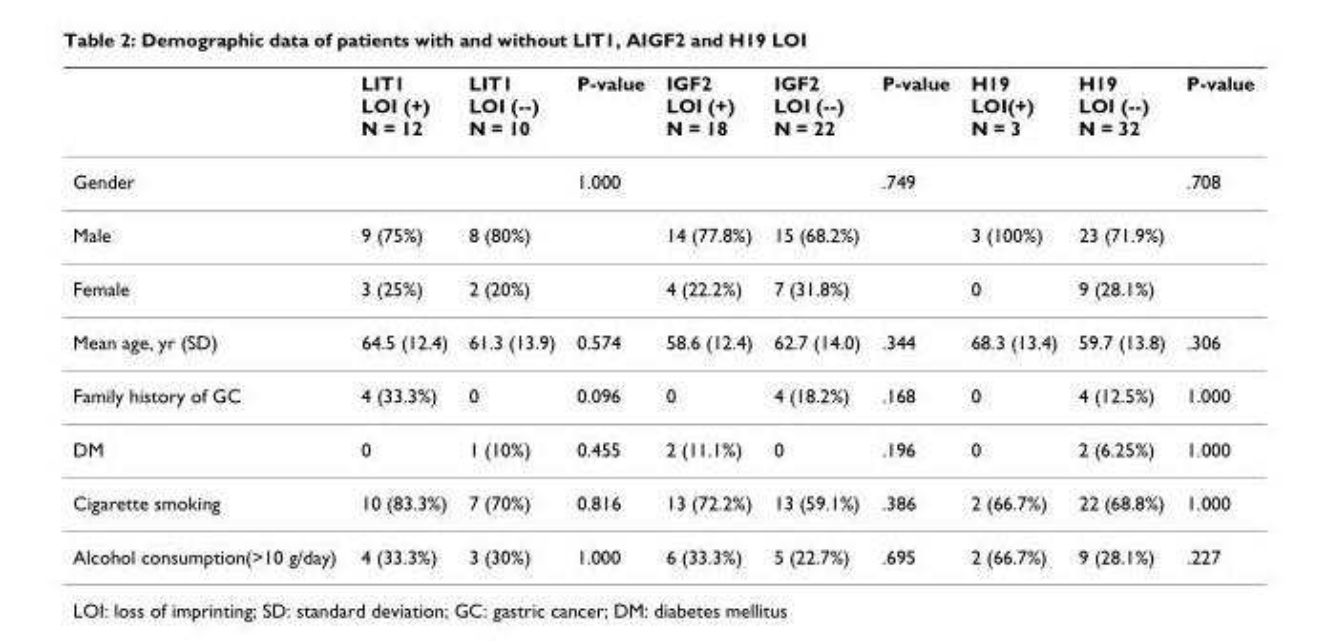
<table><thead><tr><td></td><td>LIT1 LOI (+) N = 12</td><td>LIT1 LOI (--) N = 10</td><td>P-value</td><td>IGF2 LOI (+) N = 18</td><td>IGF2 LOI (--) N = 22</td><td>P-value</td><td>H19 LOI(+) N = 3</td><td>H19 LOI (--) N = 32</td><td>P-value</td></tr></thead><tbody><tr><td>Gender</td><td></td><td></td><td>1.000</td><td></td><td></td><td>.749</td><td></td><td></td><td>.708</td></tr><tr><td>Male</td><td>9 (75%)</td><td>8 (80%)</td><td></td><td>14 (77.8%)</td><td>15 (68.2%)</td><td></td><td>3 (100%)</td><td>23 (71.9%)</td><td></td></tr><tr><td>Female</td><td>3 (25%)</td><td>2 (20%)</td><td></td><td>4 (22.2%)</td><td>7 (31.8%)</td><td></td><td>0</td><td>9 (28.1%)</td><td></td></tr><tr><td>Mean age, yr (SD)</td><td>64.5 (12.4)</td><td>61.3 (13.9)</td><td>0.574</td><td>58.6 (12.4)</td><td>62.7 (14.0)</td><td>.344</td><td>68.3 (13.4)</td><td>59.7 (13.8)</td><td>.306</td></tr><tr><td>Family history of GC</td><td>4 (33.3%)</td><td>0</td><td>0.096</td><td>0</td><td>4 (18.2%)</td><td>.168</td><td>0</td><td>4 (12.5%)</td><td>1.000</td></tr><tr><td>DM</td><td>0</td><td>1 (10%)</td><td>0.455</td><td>2 (11.1%)</td><td>0</td><td>.196</td><td>0</td><td>2 (6.25%)</td><td>1.000</td></tr><tr><td>Cigarette smoking</td><td>10 (83.3%)</td><td>7 (70%)</td><td>0.816</td><td>13 (72.2%)</td><td>13 (59.1%)</td><td>.386</td><td>2 (66.7%)</td><td>22 (68.8%)</td><td>1.000</td></tr><tr><td>Alcohol consumption(&gt;10 g/day)</td><td>4 (33.3%)</td><td>3 (30%)</td><td>1.000</td><td>6 (33.3%)</td><td>5 (22.7%)</td><td>.695</td><td>2 (66.7%)</td><td>9 (28.1%)</td><td>.227</td></tr></tbody></table>